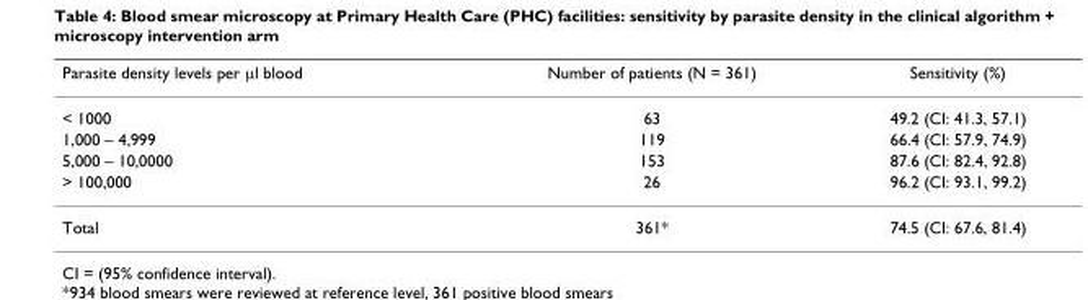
<table><thead><tr><td>Parasite density levels per μl blood</td><td>Number of patients (N = 361)</td><td>Sensitivity (%)</td></tr></thead><tbody><tr><td>&lt; 1000</td><td>63</td><td>49.2 (CI: 41.3, 57.1)</td></tr><tr><td>1,000 – 4,999</td><td>119</td><td>66.4 (CI: 57.9, 74.9)</td></tr><tr><td>5,000 – 10,0000</td><td>153</td><td>87.6 (CI: 82.4, 92.8)</td></tr><tr><td>&gt; 100,000</td><td>26</td><td>96.2 (CI: 93.1, 99.2)</td></tr><tr><td>Total</td><td>361*</td><td>74.5 (CI: 67.6, 81.4)</td></tr></tbody></table>